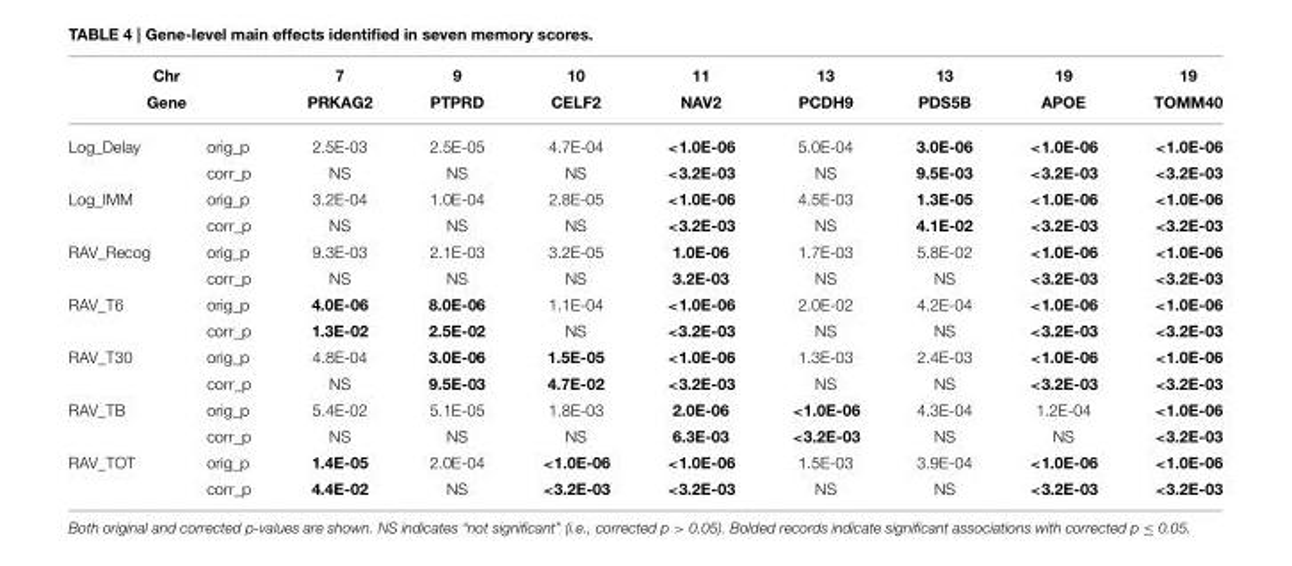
<table><thead><tr><td rowspan="2" colspan="2">Chr Gene</td><td rowspan="3">7 PRKAG2 2.5E-03</td><td rowspan="3">9 PTPRD 2.5E-05</td><td rowspan="3">10 CELF2 4.7E-04</td><td rowspan="3">11 NAV2 &lt;1.0E-06</td><td rowspan="3">13 PCDH9 5.0E-04</td><td rowspan="3">13 PDS5B 3.0E-06</td><td rowspan="3">19 APOE &lt;1.0E-06</td><td rowspan="3">19 TOMM40 &lt;1.0E-06</td></tr><tr></tr><tr><td>Log_Delay</td><td>orig_p</td></tr></thead><tbody><tr><td></td><td>corr_p</td><td>NS</td><td>NS</td><td>NS</td><td>&lt;3.2E-03</td><td>NS</td><td>9.5E-03</td><td>&lt;3.2E-03</td><td>&lt;3.2E-03</td></tr><tr><td rowspan="2">Log_IMM</td><td>orig_p</td><td>3.2E-04</td><td>1.0E-04</td><td>2.8E-05</td><td>&lt;1.0E-06</td><td>4.5E-03</td><td>1.3E-05</td><td>&lt;1.0E-06</td><td>&lt;1.0E-06</td></tr><tr><td>corr_p</td><td>NS</td><td>NS</td><td>NS</td><td>&lt;3.2E-03</td><td>NS</td><td>4.1E-02</td><td>&lt;3.2E-03</td><td>&lt;3.2E-03</td></tr><tr><td rowspan="2">RAV_Recog</td><td>orig_p</td><td>9.3E-03</td><td>2.1E-03</td><td>3.2E-05</td><td>1.0E-06</td><td>1.7E-03</td><td>5.8E-02</td><td>&lt;1.0E-06</td><td>&lt;1.0E-06</td></tr><tr><td>corr_p</td><td>NS</td><td>NS</td><td>NS</td><td>3.2E-03</td><td>NS</td><td>NS</td><td>&lt;3.2E-03</td><td>&lt;3.2E-03</td></tr><tr><td rowspan="2">RAV_T6</td><td>orig_p</td><td>4.0E-06</td><td>8.0E-06</td><td>1.1E-04</td><td>&lt;1.0E-06</td><td>2.0E-02</td><td>4.2E-04</td><td>&lt;1.0E-06</td><td>&lt;1.0E-06</td></tr><tr><td>corr_p</td><td>1.3E-02</td><td>2.5E-02</td><td>NS</td><td>&lt;3.2E-03</td><td>NS</td><td>NS</td><td>&lt;3.2E-03</td><td>&lt;3.2E-03</td></tr><tr><td rowspan="2">RAV_T30</td><td>orig_p</td><td>4.8E-04</td><td>3.0E-06</td><td>1.5E-05</td><td>&lt;1.0E-06</td><td>1.3E-03</td><td>2.4E-03</td><td>&lt;1.0E-06</td><td>&lt;1.0E-06</td></tr><tr><td>corr_p</td><td>NS</td><td>9.5E-03</td><td>4.7E-02</td><td>&lt;3.2E-03</td><td>NS</td><td>NS</td><td>&lt;3.2E-03</td><td>&lt;3.2E-03</td></tr><tr><td rowspan="2">RAV_TB</td><td>orig_p</td><td>5.4E-02</td><td>5.1E-05</td><td>1.8E-03</td><td>2.0E-06</td><td>&lt;1.0E-06</td><td>4.3E-04</td><td>1.2E-04</td><td>&lt;1.0E-06</td></tr><tr><td>corr_p</td><td>NS</td><td>NS</td><td>NS</td><td>6.3E-03</td><td>&lt;3.2E-03</td><td>NS</td><td>NS</td><td>&lt;3.2E-03</td></tr><tr><td rowspan="2">RAV_TOT</td><td>orig_p</td><td>1.4E-05</td><td>2.0E-04</td><td>&lt;1.0E-06</td><td>&lt;1.0E-06</td><td>1.5E-03</td><td>3.9E-04</td><td>&lt;1.0E-06</td><td>&lt;1.0E-06</td></tr><tr><td>corr_p</td><td>4.4E-02</td><td>NS</td><td>&lt;3.2E-03</td><td>&lt;3.2E-03</td><td>NS</td><td>NS</td><td>&lt;3.2E-03</td><td>&lt;3.2E-03</td></tr></tbody></table>